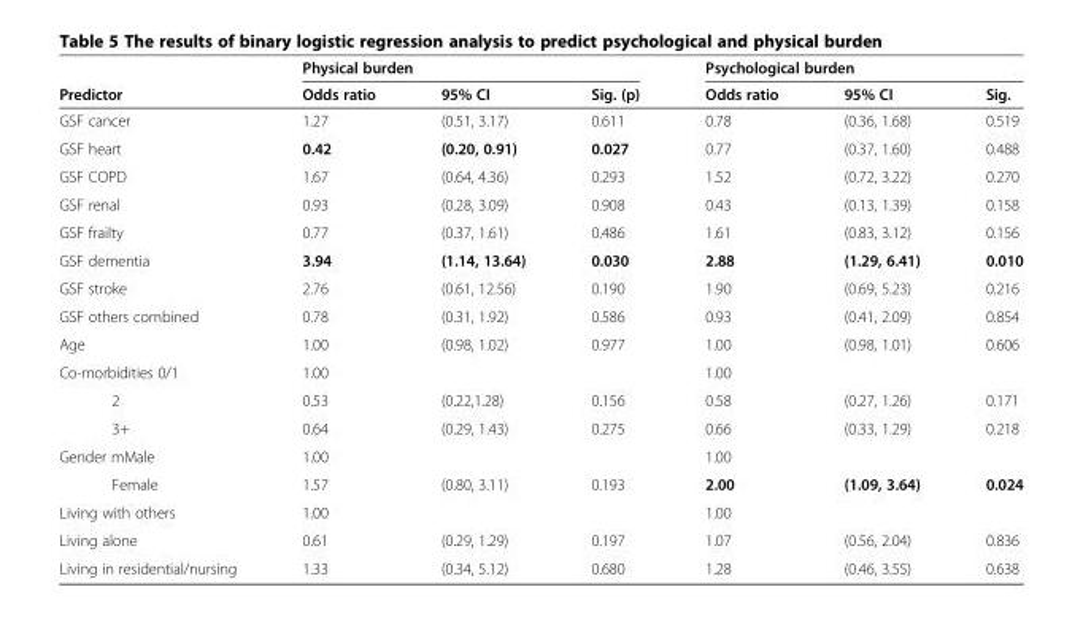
<table><thead><tr><td rowspan="2">Predictor</td><td colspan="3">Physical burden</td><td colspan="3">Psychological burden</td></tr><tr><td>Odds ratio</td><td>95% CI</td><td>Sig. (p)</td><td>Odds ratio</td><td>95% CI</td><td>Sig.</td></tr></thead><tbody><tr><td>GSF cancer</td><td>1.27</td><td>(0.51, 3.17)</td><td>0.611</td><td>0.78</td><td>(0.36, 1.68)</td><td>0.519</td></tr><tr><td>GSF heart</td><td>0.42</td><td>(0.20, 0.91)</td><td>0.027</td><td>0.77</td><td>(0.37, 1.60)</td><td>0.488</td></tr><tr><td>GSF COPD</td><td>1.67</td><td>(0.64, 4.36)</td><td>0.293</td><td>1.52</td><td>(0.72, 3.22)</td><td>0.270</td></tr><tr><td>GSF renal</td><td>0.93</td><td>(0.28, 3.09)</td><td>0.908</td><td>0.43</td><td>(0.13, 1.39)</td><td>0.158</td></tr><tr><td>GSF frailty</td><td>0.77</td><td>(0.37, 1.61)</td><td>0.486</td><td>1.61</td><td>(0.83, 3.12)</td><td>0.156</td></tr><tr><td>GSF dementia</td><td>3.94</td><td>(1.14, 13.64)</td><td>0.030</td><td>2.88</td><td>(1.29, 6.41)</td><td>0.010</td></tr><tr><td>GSF stroke</td><td>2.76</td><td>(0.61, 12.56)</td><td>0.190</td><td>1.90</td><td>(0.69, 5.23)</td><td>0.216</td></tr><tr><td>GSF others combined</td><td>0.78</td><td>(0.31, 1.92)</td><td>0.586</td><td>0.93</td><td>(0.41, 2.09)</td><td>0.854</td></tr><tr><td>Age</td><td>1.00</td><td>(0.98, 1.02)</td><td>0.977</td><td>1.00</td><td>(0.98, 1.01)</td><td>0.606</td></tr><tr><td>Co-morbidities 0/1</td><td>1.00</td><td></td><td></td><td>1.00</td><td></td><td></td></tr><tr><td>2</td><td>0.53</td><td>(0.22,1.28)</td><td>0.156</td><td>0.58</td><td>(0.27, 1.26)</td><td>0.171</td></tr><tr><td>3+</td><td>0.64</td><td>(0.29, 1.43)</td><td>0.275</td><td>0.66</td><td>(0.33, 1.29)</td><td>0.218</td></tr><tr><td>Gender mMale</td><td>1.00</td><td></td><td></td><td>1.00</td><td></td><td></td></tr><tr><td>Female</td><td>1.57</td><td>(0.80, 3.11)</td><td>0.193</td><td>2.00</td><td>(1.09, 3.64)</td><td>0.024</td></tr><tr><td>Living with others</td><td>1.00</td><td></td><td></td><td>1.00</td><td></td><td></td></tr><tr><td>Living alone</td><td>0.61</td><td>(0.29, 1.29)</td><td>0.197</td><td>1.07</td><td>(0.56, 2.04)</td><td>0.836</td></tr><tr><td>Living in residential/nursing</td><td>1.33</td><td>(0.34, 5.12)</td><td>0.680</td><td>1.28</td><td>(0.46, 3.55)</td><td>0.638</td></tr></tbody></table>